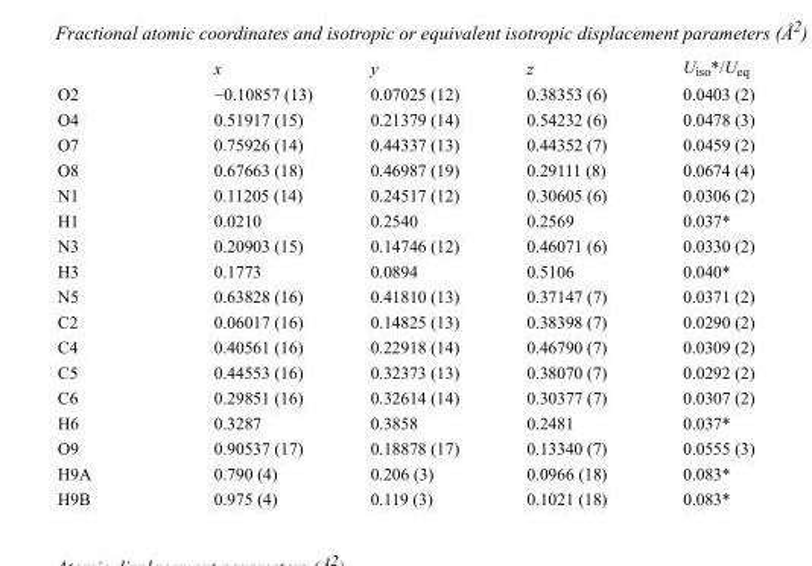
<table><thead><tr><td></td><td>x</td><td>y</td><td>z</td><td>U<sub>iso</sub>*/U<sub>eq</sub></td></tr></thead><tbody><tr><td>O2</td><td>−0.10857 (13)</td><td>0.07025 (12)</td><td>0.38353 (6)</td><td>0.0403 (2)</td></tr><tr><td>O4</td><td>0.51917 (15)</td><td>0.21379 (14)</td><td>0.54232 (6)</td><td>0.0478 (3)</td></tr><tr><td>O7</td><td>0.75926 (14)</td><td>0.44337 (13)</td><td>0.44352 (7)</td><td>0.0459 (2)</td></tr><tr><td>O8</td><td>0.67663 (18)</td><td>0.46987 (19)</td><td>0.29111 (8)</td><td>0.0674 (4)</td></tr><tr><td>N1</td><td>0.11205 (14)</td><td>0.24517 (12)</td><td>0.30605 (6)</td><td>0.0306 (2)</td></tr><tr><td>H1</td><td>0.0210</td><td>0.2540</td><td>0.2569</td><td>0.037*</td></tr><tr><td>N3</td><td>0.20903 (15)</td><td>0.14746 (12)</td><td>0.46071 (6)</td><td>0.0330 (2)</td></tr><tr><td>H3</td><td>0.1773</td><td>0.0894</td><td>0.5106</td><td>0.040*</td></tr><tr><td>N5</td><td>0.63828 (16)</td><td>0.41810 (13)</td><td>0.37147 (7)</td><td>0.0371 (2)</td></tr><tr><td>C2</td><td>0.06017 (16)</td><td>0.14825 (13)</td><td>0.38398 (7)</td><td>0.0290 (2)</td></tr><tr><td>C4</td><td>0.40561 (16)</td><td>0.22918 (14)</td><td>0.46790 (7)</td><td>0.0309 (2)</td></tr><tr><td>C5</td><td>0.44553 (16)</td><td>0.32373 (13)</td><td>0.38070 (7)</td><td>0.0292 (2)</td></tr><tr><td>C6</td><td>0.29851 (16)</td><td>0.32614 (14)</td><td>0.30377 (7)</td><td>0.0307 (2)</td></tr><tr><td>H6</td><td>0.3287</td><td>0.3858</td><td>0.2481</td><td>0.037*</td></tr><tr><td>O9</td><td>0.90537 (17)</td><td>0.18878 (17)</td><td>0.13340 (7)</td><td>0.0555 (3)</td></tr><tr><td>H9A</td><td>0.790 (4)</td><td>0.206 (3)</td><td>0.0966 (18)</td><td>0.083*</td></tr><tr><td>H9B</td><td>0.975 (4)</td><td>0.119 (3)</td><td>0.1021 (18)</td><td>0.083*</td></tr></tbody></table>